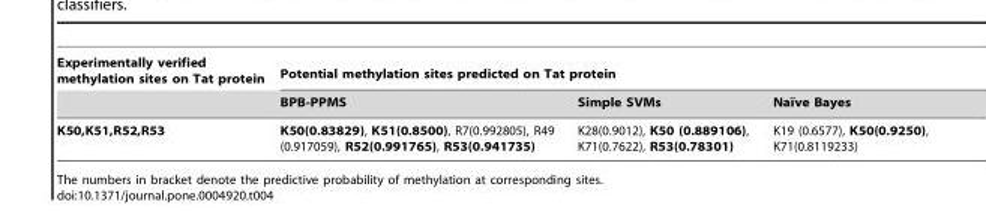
<table><thead><tr><td rowspan="2">Experimentally verified methylation sites on Tat protein</td><td colspan="3">Potential methylation sites predicted on Tat protein</td></tr><tr><td>BPB-PPMS</td><td>Simple SVMs</td><td>Naı¨ve Bayes</td></tr></thead><tbody><tr><td>K50,K51,R52,R53</td><td>K50(0.83829), K51(0.8500), R7(0.992805), R49 (0.917059), R52(0.991765), R53(0.941735)</td><td>K28(0.9012), K50 (0.889106), K71(0.7622), R53(0.78301)</td><td>K19 (0.6577), K50(0.9250), K71(0.8119233)</td></tr></tbody></table>